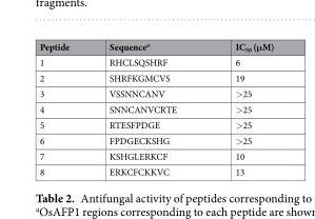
<table><thead><tr><td>Peptide</td><td>Sequence<sup>a</sup></td><td>IC<sub>50</sub> (μM)</td></tr></thead><tbody><tr><td>1</td><td>RHCLSQSHRF</td><td>6</td></tr><tr><td>2</td><td>SHRFKGMCVS</td><td>19</td></tr><tr><td>3</td><td>VSSNNCANV</td><td>&gt;25</td></tr><tr><td>4</td><td>SNNCANVCRTE</td><td>&gt;25</td></tr><tr><td>5</td><td>RTESFPDGE</td><td>&gt;25</td></tr><tr><td>6</td><td>FPDGECKSHG</td><td>&gt;25</td></tr><tr><td>7</td><td>KSHGLERKCF</td><td>10</td></tr><tr><td>8</td><td>ERKCFCKKVC</td><td>13</td></tr></tbody></table>